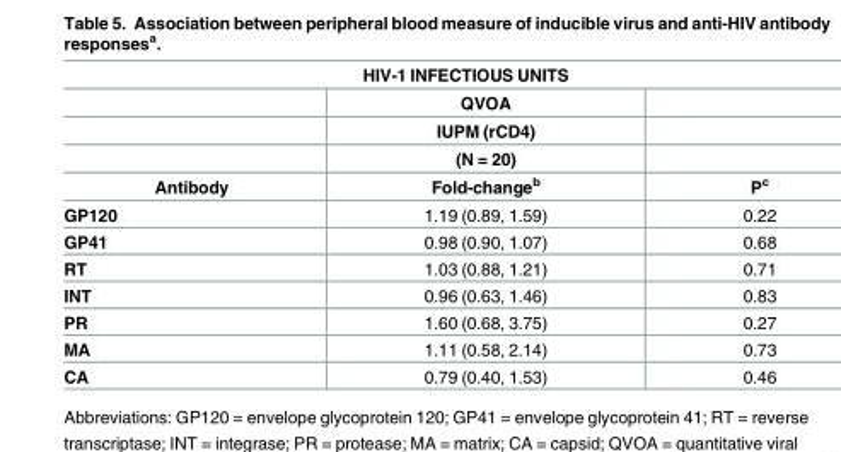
<table><thead><tr><td colspan="3">HIV-1 INFECTIOUS UNITS</td></tr><tr><td rowspan="4">Antibody</td><td rowspan="4">QVOA IUPM (rCD4) (N = 20) Fold-change<sup>b</sup></td><td rowspan="4">P<sup>c</sup></td></tr><tr></tr><tr></tr><tr></tr></thead><tbody><tr><td>GP120</td><td>1.19 (0.89, 1.59)</td><td>0.22</td></tr><tr><td>GP41</td><td>0.98 (0.90, 1.07)</td><td>0.68</td></tr><tr><td>RT</td><td>1.03 (0.88, 1.21)</td><td>0.71</td></tr><tr><td>INT</td><td>0.96 (0.63, 1.46)</td><td>0.83</td></tr><tr><td>PR</td><td>1.60 (0.68, 3.75)</td><td>0.27</td></tr><tr><td>MA</td><td>1.11 (0.58, 2.14)</td><td>0.73</td></tr><tr><td>CA</td><td>0.79 (0.40, 1.53)</td><td>0.46</td></tr></tbody></table>